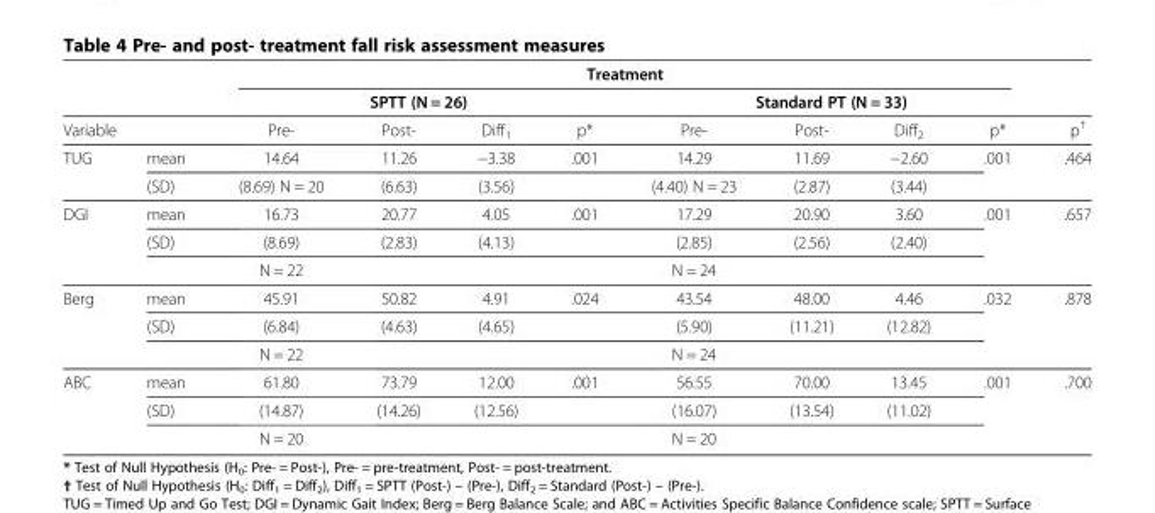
<table><thead><tr><td rowspan="2"></td><td rowspan="2"></td><td colspan="8">Treatment</td><td rowspan="3">p<sup>†</sup></td></tr><tr><td colspan="4">SPTT (N = 26)</td><td colspan="4">Standard PT (N = 33)</td></tr><tr><td colspan="2">Variable</td><td>Pre-</td><td>Post-</td><td>Diff<sub>1</sub></td><td>p*</td><td>Pre-</td><td>Post-</td><td>Diff<sub>2</sub></td><td>p*</td></tr></thead><tbody><tr><td rowspan="2">TUG</td><td>mean</td><td>14.64</td><td>11.26</td><td>−3.38</td><td>.001</td><td>14.29</td><td>11.69</td><td>−2.60</td><td rowspan="2">.001</td><td rowspan="2">.464</td></tr><tr><td>(SD)</td><td>(8.69) N = 20</td><td>(6.63)</td><td>(3.56)</td><td></td><td>(4.40) N = 23</td><td>(2.87)</td><td>(3.44)</td></tr><tr><td rowspan="3">DGI</td><td>mean</td><td>16.73</td><td>20.77</td><td>4.05</td><td>.001</td><td>17.29</td><td>20.90</td><td>3.60</td><td rowspan="3">.001</td><td rowspan="3">.657</td></tr><tr><td>(SD)</td><td>(8.69)</td><td>(2.83)</td><td>(4.13)</td><td></td><td>(2.85)</td><td>(2.56)</td><td>(2.40)</td></tr><tr><td></td><td>N = 22</td><td></td><td></td><td></td><td>N = 24</td><td></td><td></td></tr><tr><td rowspan="3">Berg</td><td>mean</td><td>45.91</td><td>50.82</td><td>4.91</td><td>.024</td><td>43.54</td><td>48.00</td><td>4.46</td><td>.032</td><td>.878</td></tr><tr><td>(SD)</td><td>(6.84)</td><td>(4.63)</td><td>(4.65)</td><td></td><td>(5.90)</td><td>(11.21)</td><td>(12.82)</td><td></td><td></td></tr><tr><td></td><td>N = 22</td><td></td><td></td><td></td><td>N = 24</td><td></td><td></td><td></td><td></td></tr><tr><td rowspan="3">ABC</td><td>mean</td><td>61.80</td><td>73.79</td><td>12.00</td><td>.001</td><td>56.55</td><td>70.00</td><td>13.45</td><td rowspan="3">.001</td><td rowspan="3">.700</td></tr><tr><td>(SD)</td><td>(14.87)</td><td>(14.26)</td><td>(12.56)</td><td></td><td>(16.07)</td><td>(13.54)</td><td>(11.02)</td></tr><tr><td></td><td>N = 20</td><td></td><td></td><td></td><td>N = 20</td><td></td><td></td></tr></tbody></table>